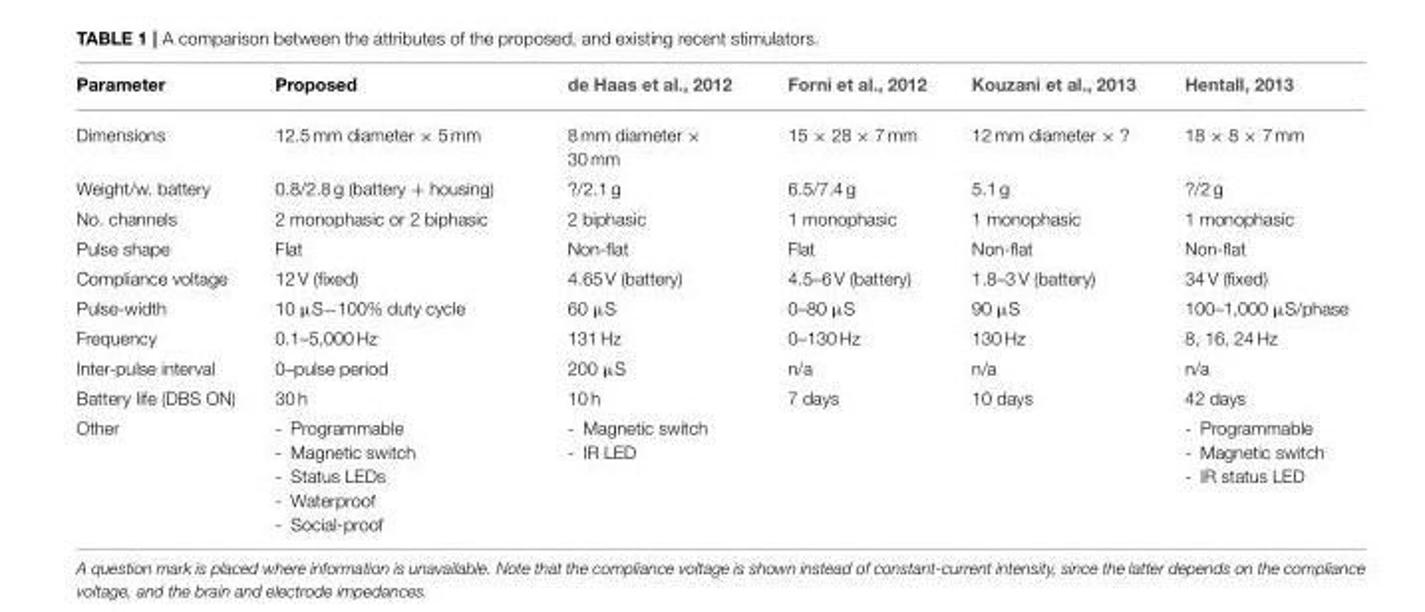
<table><thead><tr><td>Parameter</td><td>Proposed</td><td>de Haas et al., 2012</td><td>Forni et al., 2012</td><td>Kouzani et al., 2013</td><td>Hentall, 2013</td></tr></thead><tbody><tr><td>Dimensions</td><td>12.5 mm diameter × 5 mm</td><td>8 mm diameter × 30 mm</td><td>15 × 28 × 7 mm</td><td>12 mm diameter × ?</td><td>18 × 8 × 7 mm</td></tr><tr><td>Weight/w. battery</td><td>0.8/2.8 g (battery + housing)</td><td>?/2.1 g</td><td>6.5/7.4 g</td><td>5.1 g</td><td>?/2 g</td></tr><tr><td>No. channels</td><td>2 monophasic or 2 biphasic</td><td>2 biphasic</td><td>1 monophasic</td><td>1 monophasic</td><td>1 monophasic</td></tr><tr><td>Pulse shape</td><td>Flat</td><td>Non-flat</td><td>Flat</td><td>Non-flat</td><td>Non-flat</td></tr><tr><td>Compliance voltage</td><td>12 V (fixed)</td><td>4.65 V (battery)</td><td>4.5–6 V (battery)</td><td>1.8–3 V (battery)</td><td>34 V (fixed)</td></tr><tr><td>Pulse-width</td><td>10 µS−100% duty cycle</td><td>60 µS</td><td>0–80 µS</td><td>90 µS</td><td>100–1,000 µS/phase</td></tr><tr><td>Frequency</td><td>0.1–5,000 Hz</td><td>131 Hz</td><td>0–130 Hz</td><td>130 Hz</td><td>8, 16, 24 Hz</td></tr><tr><td>Inter-pulse interval</td><td>0–pulse period</td><td>200 µS</td><td>n/a</td><td>n/a</td><td>n/a</td></tr><tr><td>Battery life (DBS ON)</td><td>30 h</td><td>10 h</td><td>7 days</td><td>10 days</td><td>42 days</td></tr><tr><td>Other</td><td>- Programmable - Magnetic switch - Status LEDs - Waterproof - Social-proof</td><td>- Magnetic switch - IR LED</td><td></td><td></td><td>- Programmable - Magnetic switch - IR status LED</td></tr></tbody></table>